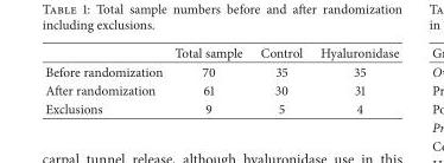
<table><thead><tr><td></td><td>Total sample</td><td>Control</td><td>Hyaluronidase</td></tr></thead><tbody><tr><td>Before randomization</td><td>70</td><td>35</td><td>35</td></tr><tr><td>After randomization</td><td>61</td><td>30</td><td>31</td></tr><tr><td>Exclusions</td><td>9</td><td>5</td><td>4</td></tr></tbody></table>